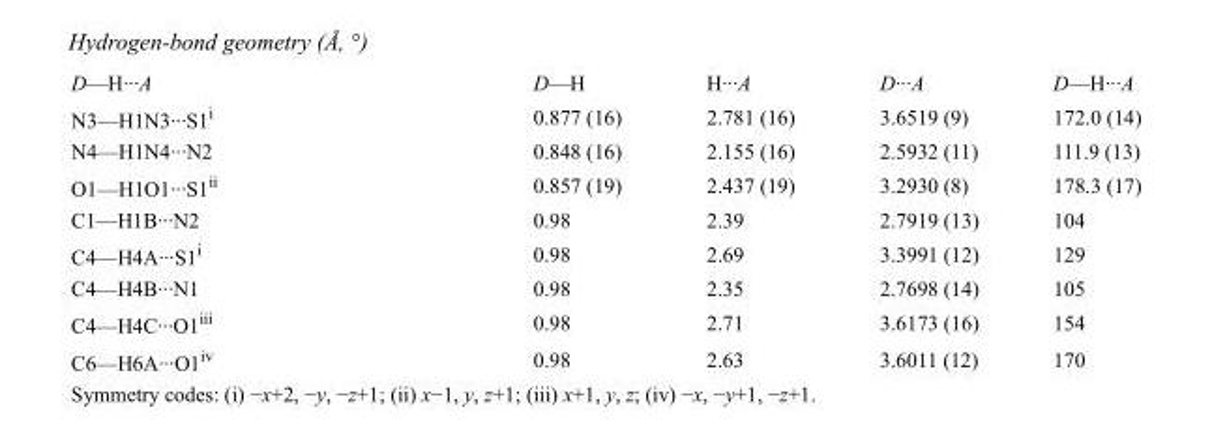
<table><tbody><tr><td>D—H···A</td><td>D—H</td><td>H···A</td><td>D···A</td><td>D—H···A</td></tr><tr><td>N3—H1N3···S1<sup>i</sup></td><td>0.877 (16)</td><td>2.781 (16)</td><td>3.6519 (9)</td><td>172.0 (14)</td></tr><tr><td>N4—H1N4···N2</td><td>0.848 (16)</td><td>2.155 (16)</td><td>2.5932 (11)</td><td>111.9 (13)</td></tr><tr><td>O1—H1O1···S1<sup>ii</sup></td><td>0.857 (19)</td><td>2.437 (19)</td><td>3.2930 (8)</td><td>178.3 (17)</td></tr><tr><td>C1—H1B···N2</td><td>0.98</td><td>2.39</td><td>2.7919 (13)</td><td>104</td></tr><tr><td>C4—H4A···S1<sup>i</sup></td><td>0.98</td><td>2.69</td><td>3.3991 (12)</td><td>129</td></tr><tr><td>C4—H4B···N1</td><td>0.98</td><td>2.35</td><td>2.7698 (14)</td><td>105</td></tr><tr><td>C4—H4C···O1<sup>iii</sup></td><td>0.98</td><td>2.71</td><td>3.6173 (16)</td><td>154</td></tr><tr><td>C6—H6A···O1<sup>iv</sup></td><td>0.98</td><td>2.63</td><td>3.6011 (12)</td><td>170</td></tr></tbody></table>